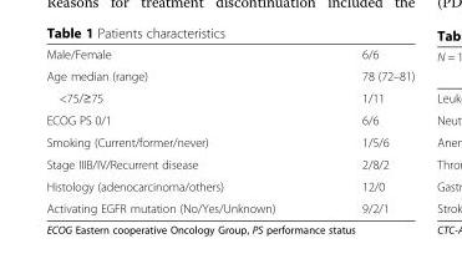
<table><tbody><tr><td>Male/Female</td><td>6/6</td></tr><tr><td>Age median (range)</td><td>78 (72–81)</td></tr><tr><td>&lt;75/≥75</td><td>1/11</td></tr><tr><td>ECOG PS 0/1</td><td>6/6</td></tr><tr><td>Smoking (Current/former/never)</td><td>1/5/6</td></tr><tr><td>Stage IIIB/IV/Recurrent disease</td><td>2/8/2</td></tr><tr><td>Histology (adenocarcinoma/others)</td><td>12/0</td></tr><tr><td>Activating EGFR mutation (No/Yes/Unknown)</td><td>9/2/1</td></tr></tbody></table>